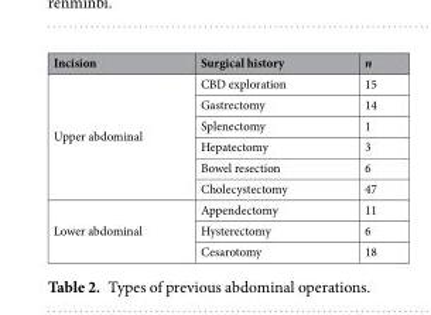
<table><thead><tr><td>Incision</td><td>Surgical history</td><td>n</td></tr></thead><tbody><tr><td rowspan="6">Upper abdominal</td><td>CBD exploration</td><td>15</td></tr><tr><td>Gastrectomy</td><td>14</td></tr><tr><td>Splenectomy</td><td>1</td></tr><tr><td>Hepatectomy</td><td>3</td></tr><tr><td>Bowel resection</td><td>6</td></tr><tr><td>Cholecystectomy</td><td>47</td></tr><tr><td rowspan="3">Lower abdominal</td><td>Appendectomy</td><td>11</td></tr><tr><td>Hysterectomy</td><td>6</td></tr><tr><td>Cesarotomy</td><td>18</td></tr></tbody></table>